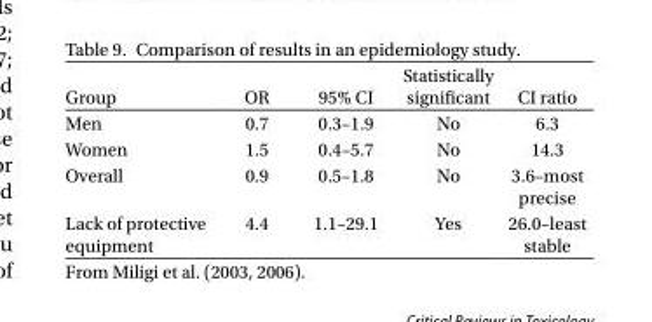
<table><thead><tr><td>Group</td><td>OR</td><td>95% CI</td><td>Statistically significant</td><td>CI ratio</td></tr></thead><tbody><tr><td>Men</td><td>0.7</td><td>0.3–1.9</td><td>No</td><td>6.3</td></tr><tr><td>Women</td><td>1.5</td><td>0.4–5.7</td><td>No</td><td>14.3</td></tr><tr><td>Overall</td><td>0.9</td><td>0.5–1.8</td><td>No</td><td>3.6–most precise</td></tr><tr><td>Lack of protective equipment</td><td>4.4</td><td>1.1–29.1</td><td>Yes</td><td>26.0–least stable</td></tr></tbody></table>